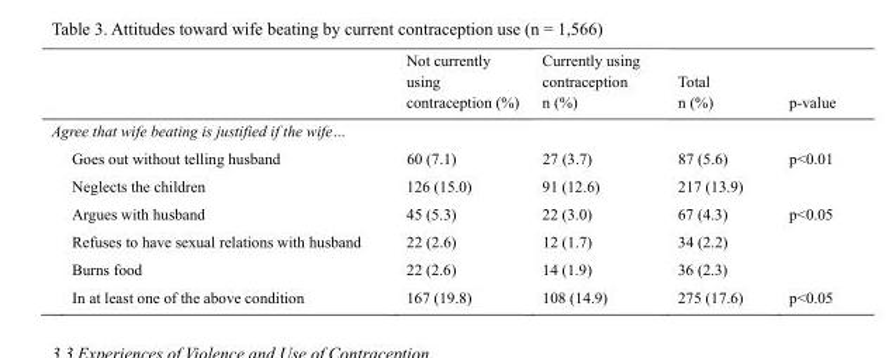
<table><thead><tr><td></td><td>Not currently using contraception (%)</td><td>Currently using contraception n (%)</td><td>Total n (%)</td><td>p-value</td></tr></thead><tbody><tr><td colspan="5">Agree that wife beating is justified if the wife…</td></tr><tr><td>Goes out without telling husband</td><td>60 (7.1)</td><td>27 (3.7)</td><td>87 (5.6)</td><td>p&lt;0.01</td></tr><tr><td>Neglects the children</td><td>126 (15.0)</td><td>91 (12.6)</td><td>217 (13.9)</td><td></td></tr><tr><td>Argues with husband</td><td>45 (5.3)</td><td>22 (3.0)</td><td>67 (4.3)</td><td>p&lt;0.05</td></tr><tr><td>Refuses to have sexual relations with husband</td><td>22 (2.6)</td><td>12 (1.7)</td><td>34 (2.2)</td><td></td></tr><tr><td>Burns food</td><td>22 (2.6)</td><td>14 (1.9)</td><td>36 (2.3)</td><td></td></tr><tr><td>In at least one of the above condition</td><td>167 (19.8)</td><td>108 (14.9)</td><td>275 (17.6)</td><td>p&lt;0.05</td></tr></tbody></table>